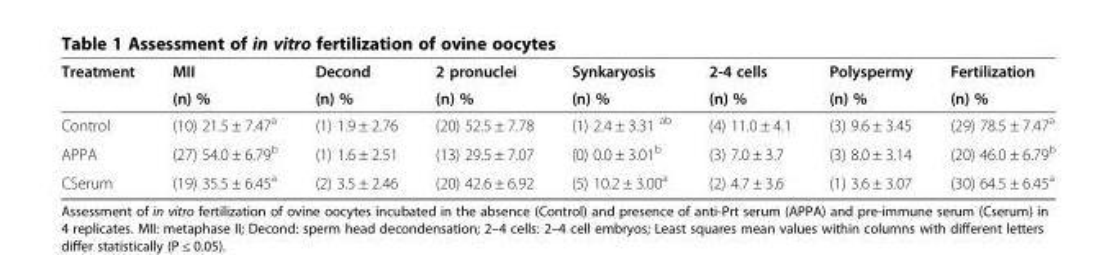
<table><thead><tr><td rowspan="2">Treatment</td><td rowspan="2">MII (n) %</td><td rowspan="2">Decond (n) %</td><td rowspan="2">2 pronuclei (n) %</td><td rowspan="2">Synkaryosis (n) %</td><td rowspan="2">2-4 cells (n) %</td><td rowspan="2">Polyspermy (n) %</td><td rowspan="2">Fertilization (n) %</td></tr><tr></tr></thead><tbody><tr><td>Control</td><td>(10) 21.5 ± 7.47<sup>a</sup></td><td>(1) 1.9 ± 2.76</td><td>(20) 52.5 ± 7.78</td><td>(1) 2.4 ± 3.31 <sup>ab</sup></td><td>(4) 11.0 ± 4.1</td><td>(3) 9.6 ± 3.45</td><td>(29) 78.5 ± 7.47<sup>a</sup></td></tr><tr><td>APPA</td><td>(27) 54.0 ± 6.79<sup>b</sup></td><td>(1) 1.6 ± 2.51</td><td>(13) 29.5 ± 7.07</td><td>(0) 0.0 ± 3.01<sup>b</sup></td><td>(3) 7.0 ± 3.7</td><td>(3) 8.0 ± 3.14</td><td>(20) 46.0 ± 6.79<sup>b</sup></td></tr><tr><td>CSerum</td><td>(19) 35.5 ± 6.45<sup>a</sup></td><td>(2) 3.5 ± 2.46</td><td>(20) 42.6 ± 6.92</td><td>(5) 10.2 ± 3.00<sup>a</sup></td><td>(2) 4.7 ± 3.6</td><td>(1) 3.6 ± 3.07</td><td>(30) 64.5 ± 6.45<sup>a</sup></td></tr></tbody></table>